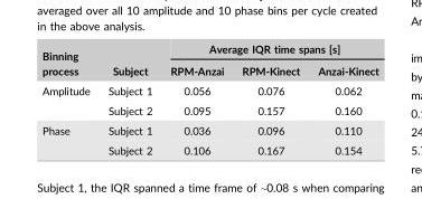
<table><thead><tr><td rowspan="2">Binning process</td><td rowspan="2">Subject</td><td colspan="3">Average IQR time spans [s]</td></tr><tr><td>RPM-Anzai</td><td>RPM-Kinect</td><td>Anzai-Kinect</td></tr></thead><tbody><tr><td rowspan="2">Amplitude</td><td>Subject 1</td><td>0.056</td><td>0.076</td><td>0.062</td></tr><tr><td>Subject 2</td><td>0.095</td><td>0.157</td><td>0.160</td></tr><tr><td rowspan="2">Phase</td><td>Subject 1</td><td>0.036</td><td>0.096</td><td>0.110</td></tr><tr><td>Subject 2</td><td>0.106</td><td>0.167</td><td>0.154</td></tr></tbody></table>